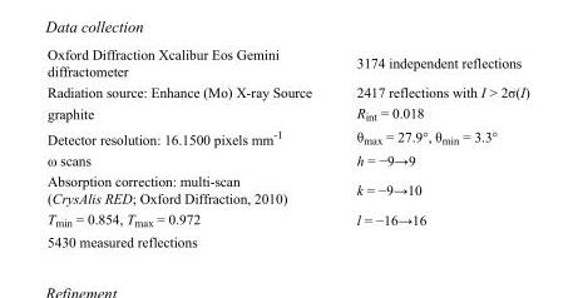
<table><tbody><tr><td>Oxford Diffraction Xcalibur Eos Gemini diffractometer</td><td>3174 independent reflections</td></tr><tr><td>Radiation source: Enhance (Mo) X-ray Source</td><td>2417 reflections with I &gt; 2σ(I)</td></tr><tr><td>graphite</td><td>R<sub>int</sub> = 0.018</td></tr><tr><td>Detector resolution: 16.1500 pixels mm<sup>-1</sup></td><td>θ<sub>max</sub> = 27.9°, θ<sub>min</sub> = 3.3°</td></tr><tr><td>ω scans</td><td>h = −9→9</td></tr><tr><td>Absorption correction: multi-scan (CrysAlis RED; Oxford Diffraction, 2010)</td><td>k = −9→10</td></tr><tr><td>T<sub>min</sub> = 0.854, T<sub>max</sub> = 0.972</td><td>l = −16→16</td></tr><tr><td>5430 measured reflections</td><td></td></tr></tbody></table>